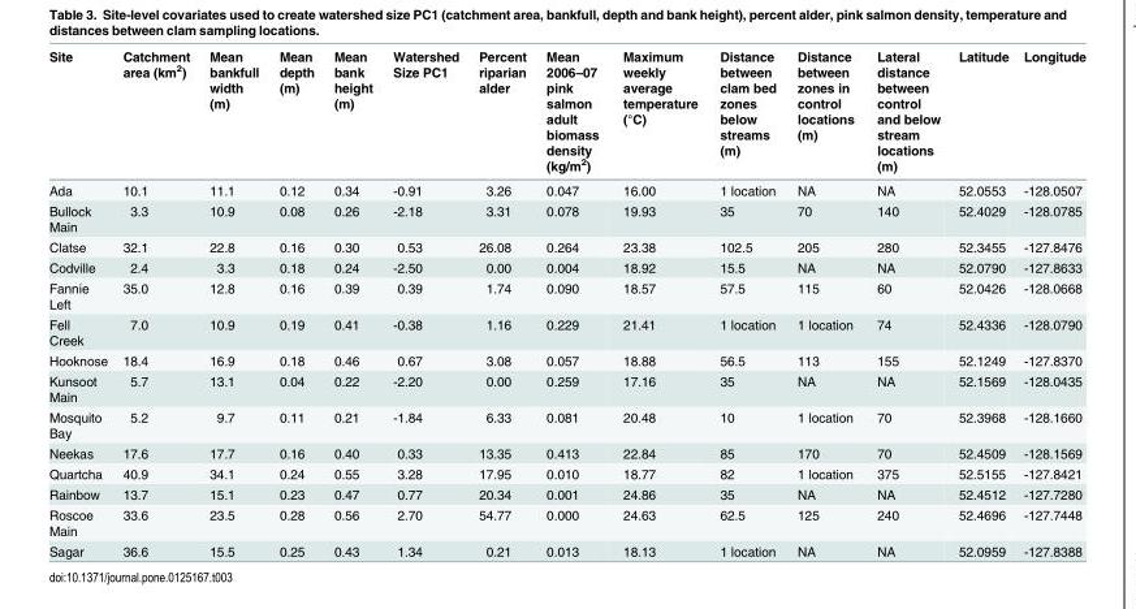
<table><thead><tr><td>Site</td><td>Catchment area (km<sup>2</sup>)</td><td>Mean bankfull width (m)</td><td>Mean depth (m)</td><td>Mean bank height (m)</td><td>Watershed Size PC1</td><td>Percent riparian alder</td><td>Mean 2006–07 pink salmon adult biomass density (kg/m<sup>2</sup>)</td><td>Maximum weekly average temperature (°C)</td><td>Distance between clam bed zones below streams (m)</td><td>Distance between zones in control locations (m)</td><td>Lateral distance between control and below stream locations (m)</td><td>Latitude</td><td>Longitude</td></tr></thead><tbody><tr><td>Ada</td><td>10.1</td><td>11.1</td><td>0.12</td><td>0.34</td><td>-0.91</td><td>3.26</td><td>0.047</td><td>16.00</td><td>1 location</td><td>NA</td><td>NA</td><td>52.0553</td><td>-128.0507</td></tr><tr><td>Bullock Main</td><td>3.3</td><td>10.9</td><td>0.08</td><td>0.26</td><td>-2.18</td><td>3.31</td><td>0.078</td><td>19.93</td><td>35</td><td>70</td><td>140</td><td>52.4029</td><td>-128.0785</td></tr><tr><td>Clatse</td><td>32.1</td><td>22.8</td><td>0.16</td><td>0.30</td><td>0.53</td><td>26.08</td><td>0.264</td><td>23.38</td><td>102.5</td><td>205</td><td>280</td><td>52.3455</td><td>-127.8476</td></tr><tr><td>Codville</td><td>2.4</td><td>3.3</td><td>0.18</td><td>0.24</td><td>-2.50</td><td>0.00</td><td>0.004</td><td>18.92</td><td>15.5</td><td>NA</td><td>NA</td><td>52.0790</td><td>-127.8633</td></tr><tr><td>Fannie Left</td><td>35.0</td><td>12.8</td><td>0.16</td><td>0.39</td><td>0.39</td><td>1.74</td><td>0.090</td><td>18.57</td><td>57.5</td><td>115</td><td>60</td><td>52.0426</td><td>-128.0668</td></tr><tr><td>Fell Creek</td><td>7.0</td><td>10.9</td><td>0.19</td><td>0.41</td><td>-0.38</td><td>1.16</td><td>0.229</td><td>21.41</td><td>1 location</td><td>1 location</td><td>74</td><td>52.4336</td><td>-128.0790</td></tr><tr><td>Hooknose</td><td>18.4</td><td>16.9</td><td>0.18</td><td>0.46</td><td>0.67</td><td>3.08</td><td>0.057</td><td>18.88</td><td>56.5</td><td>113</td><td>155</td><td>52.1249</td><td>-127.8370</td></tr><tr><td>Kunsoot Main</td><td>5.7</td><td>13.1</td><td>0.04</td><td>0.22</td><td>-2.20</td><td>0.00</td><td>0.259</td><td>17.16</td><td>35</td><td>NA</td><td>NA</td><td>52.1569</td><td>-128.0435</td></tr><tr><td>Mosquito Bay</td><td>5.2</td><td>9.7</td><td>0.11</td><td>0.21</td><td>-1.84</td><td>6.33</td><td>0.081</td><td>20.48</td><td>10</td><td>1 location</td><td>70</td><td>52.3968</td><td>-128.1660</td></tr><tr><td>Neekas</td><td>17.6</td><td>17.7</td><td>0.16</td><td>0.40</td><td>0.33</td><td>13.35</td><td>0.413</td><td>22.84</td><td>85</td><td>170</td><td>70</td><td>52.4509</td><td>-128.1569</td></tr><tr><td>Quartcha</td><td>40.9</td><td>34.1</td><td>0.24</td><td>0.55</td><td>3.28</td><td>17.95</td><td>0.010</td><td>18.77</td><td>82</td><td>1 location</td><td>375</td><td>52.5155</td><td>-127.8421</td></tr><tr><td>Rainbow</td><td>13.7</td><td>15.1</td><td>0.23</td><td>0.47</td><td>0.77</td><td>20.34</td><td>0.001</td><td>24.86</td><td>35</td><td>NA</td><td>NA</td><td>52.4512</td><td>-127.7280</td></tr><tr><td>Roscoe Main</td><td>33.6</td><td>23.5</td><td>0.28</td><td>0.56</td><td>2.70</td><td>54.77</td><td>0.000</td><td>24.63</td><td>62.5</td><td>125</td><td>240</td><td>52.4696</td><td>-127.7448</td></tr><tr><td>Sagar</td><td>36.6</td><td>15.5</td><td>0.25</td><td>0.43</td><td>1.34</td><td>0.21</td><td>0.013</td><td>18.13</td><td>1 location</td><td>NA</td><td>NA</td><td>52.0959</td><td>-127.8388</td></tr></tbody></table>